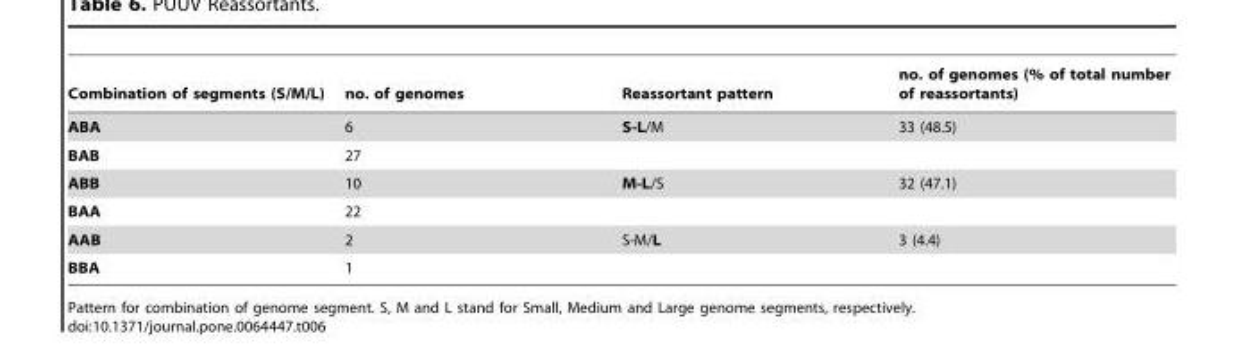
<table><thead><tr><td>Combination of segments (S/M/L)</td><td>no. of genomes</td><td>Reassortant pattern</td><td>no. of genomes (% of total number of reassortants)</td></tr></thead><tbody><tr><td>ABA</td><td>6</td><td>S-L/M</td><td>33 (48.5)</td></tr><tr><td>BAB</td><td>27</td><td></td><td></td></tr><tr><td>ABB</td><td>10</td><td>M-L/S</td><td>32 (47.1)</td></tr><tr><td>BAA</td><td>22</td><td></td><td></td></tr><tr><td>AAB</td><td>2</td><td>S-M/L</td><td>3 (4.4)</td></tr><tr><td>BBA</td><td>1</td><td></td><td></td></tr></tbody></table>